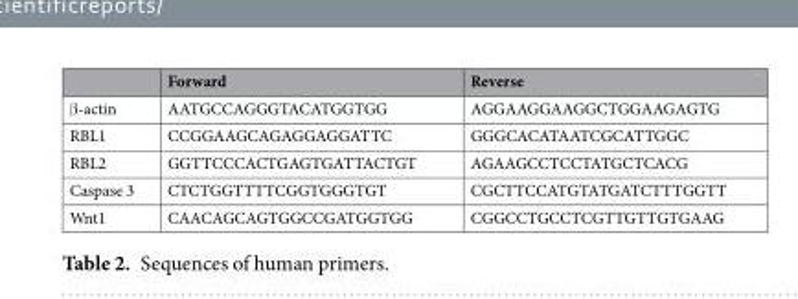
<table><thead><tr><td></td><td>Forward</td><td>Reverse</td></tr></thead><tbody><tr><td>β-actin</td><td>AATGCCAGGGTACATGGTGG</td><td>AGGAAGGAAGGCTGGAAGAGTG</td></tr><tr><td>RBL1</td><td>CCGGAAGCAGAGGAGGATTC</td><td>GGGCACATAATCGCATTGGC</td></tr><tr><td>RBL2</td><td>GGTTCCCACTGAGTGATTACTGT</td><td>AGAAGCCTCCTATGCTCACG</td></tr><tr><td>Caspase 3</td><td>CTCTGGTTTTCGGTGGGTGT</td><td>CGCTTCCATGTATGATCTTTGGTT</td></tr><tr><td>Wnt1</td><td>CAACAGCAGTGGCCGATGGTGG</td><td>CGGCCTGCCTCGTTGTTGTGAAG</td></tr></tbody></table>